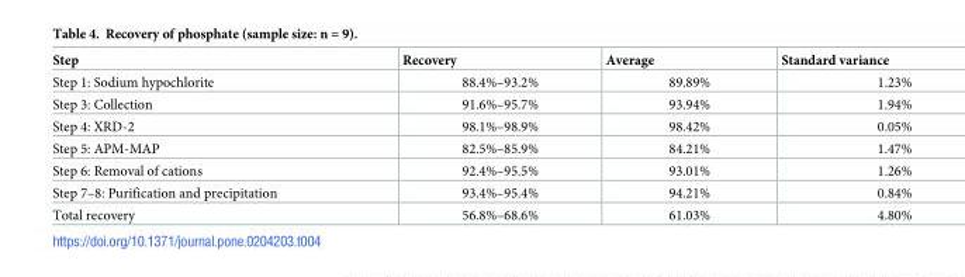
<table><thead><tr><td>Step</td><td>Recovery</td><td>Average</td><td>Standard variance</td></tr></thead><tbody><tr><td>Step 1: Sodium hypochlorite</td><td>88.4%–93.2%</td><td>89.89%</td><td>1.23%</td></tr><tr><td>Step 3: Collection</td><td>91.6%–95.7%</td><td>93.94%</td><td>1.94%</td></tr><tr><td>Step 4: XRD-2</td><td>98.1%–98.9%</td><td>98.42%</td><td>0.05%</td></tr><tr><td>Step 5: APM-MAP</td><td>82.5%–85.9%</td><td>84.21%</td><td>1.47%</td></tr><tr><td>Step 6: Removal of cations</td><td>92.4%–95.5%</td><td>93.01%</td><td>1.26%</td></tr><tr><td>Step 7–8: Purification and precipitation</td><td>93.4%–95.4%</td><td>94.21%</td><td>0.84%</td></tr><tr><td>Total recovery</td><td>56.8%–68.6%</td><td>61.03%</td><td>4.80%</td></tr></tbody></table>